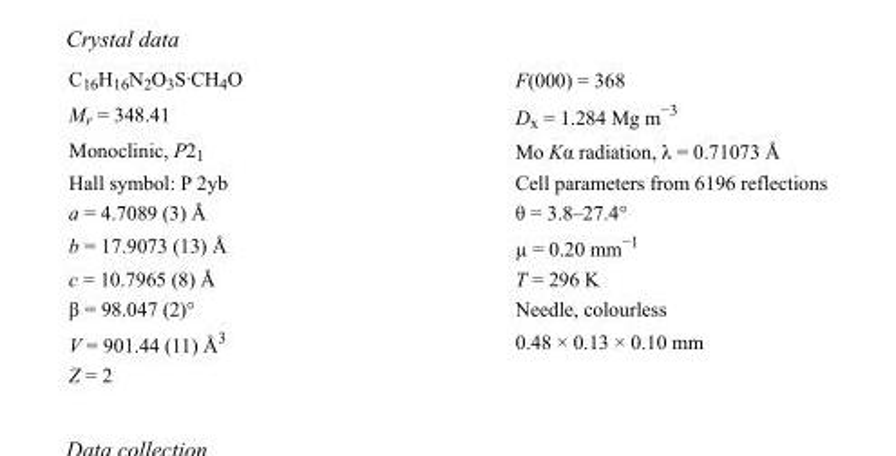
<table><tbody><tr><td>C<sub>16</sub>H<sub>16</sub>N<sub>2</sub>O<sub>3</sub>S·CH<sub>4</sub>O</td><td>F(000) = 368</td></tr><tr><td>M<sub>r</sub> = 348.41</td><td>D<sub>x</sub> = 1.284 Mg m<sup>−3</sup></td></tr><tr><td>Monoclinic, P2<sub>1</sub></td><td>Mo Kα radiation, λ = 0.71073 Å</td></tr><tr><td>Hall symbol: P 2yb</td><td>Cell parameters from 6196 reflections</td></tr><tr><td>a = 4.7089 (3) Å</td><td>θ = 3.8–27.4°</td></tr><tr><td>b = 17.9073 (13) Å</td><td>µ = 0.20 mm<sup>−1</sup></td></tr><tr><td>c = 10.7965 (8) Å</td><td>T = 296 K</td></tr><tr><td>β = 98.047 (2)°</td><td>Needle, colourless</td></tr><tr><td>V = 901.44 (11) Å<sup>3</sup></td><td>0.48 × 0.13 × 0.10 mm</td></tr><tr><td>Z = 2</td><td></td></tr></tbody></table>